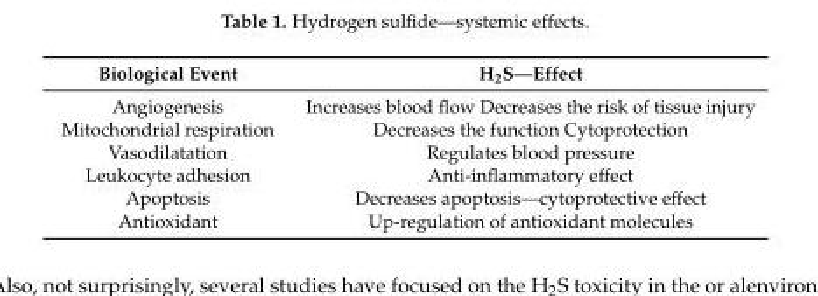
<table><thead><tr><td>Biological Event</td><td>H<sub>2</sub>S—Effect</td></tr></thead><tbody><tr><td>Angiogenesis</td><td>Increases blood flow Decreases the risk of tissue injury</td></tr><tr><td>Mitochondrial respiration</td><td>Decreases the function Cytoprotection</td></tr><tr><td>Vasodilatation</td><td>Regulates blood pressure</td></tr><tr><td>Leukocyte adhesion</td><td>Anti-inflammatory effect</td></tr><tr><td>Apoptosis</td><td>Decreases apoptosis—cytoprotective effect</td></tr><tr><td>Antioxidant</td><td>Up-regulation of antioxidant molecules</td></tr></tbody></table>